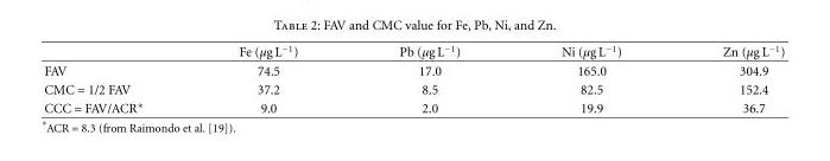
<table><thead><tr><td></td><td>Fe (µg L<sup>−1</sup>)</td><td>Pb (µg L<sup>−1</sup>)</td><td>Ni (µg L<sup>−1</sup>)</td><td>Zn (µg L<sup>−1</sup>)</td></tr></thead><tbody><tr><td>FAV</td><td>74.5</td><td>17.0</td><td>165.0</td><td>304.9</td></tr><tr><td>CMC = 1/2 FAV</td><td>37.2</td><td>8.5</td><td>82.5</td><td>152.4</td></tr><tr><td>CCC = FAV/ACR∗</td><td>9.0</td><td>2.0</td><td>19.9</td><td>36.7</td></tr></tbody></table>